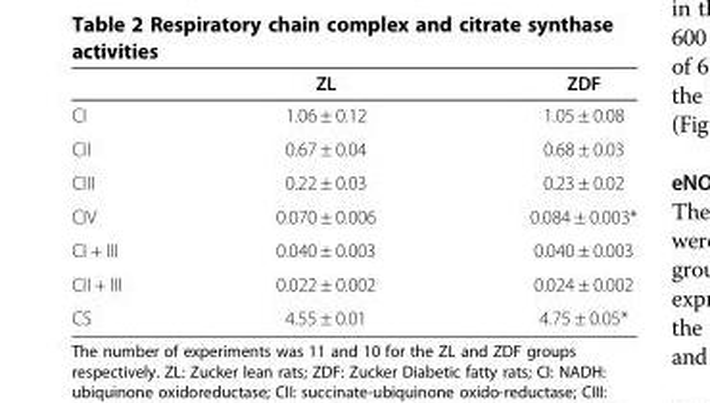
<table><thead><tr><td></td><td>ZL</td><td>ZDF</td></tr></thead><tbody><tr><td>CI</td><td>1.06 ± 0.12</td><td>1.05 ± 0.08</td></tr><tr><td>CII</td><td>0.67 ± 0.04</td><td>0.68 ± 0.03</td></tr><tr><td>CIII</td><td>0.22 ± 0.03</td><td>0.23 ± 0.02</td></tr><tr><td>CIV</td><td>0.070 ± 0.006</td><td>0.084 ± 0.003*</td></tr><tr><td>CI + III</td><td>0.040 ± 0.003</td><td>0.040 ± 0.003</td></tr><tr><td>CII + III</td><td>0.022 ± 0.002</td><td>0.024 ± 0.002</td></tr><tr><td>CS</td><td>4.55 ± 0.01</td><td>4.75 ± 0.05*</td></tr></tbody></table>